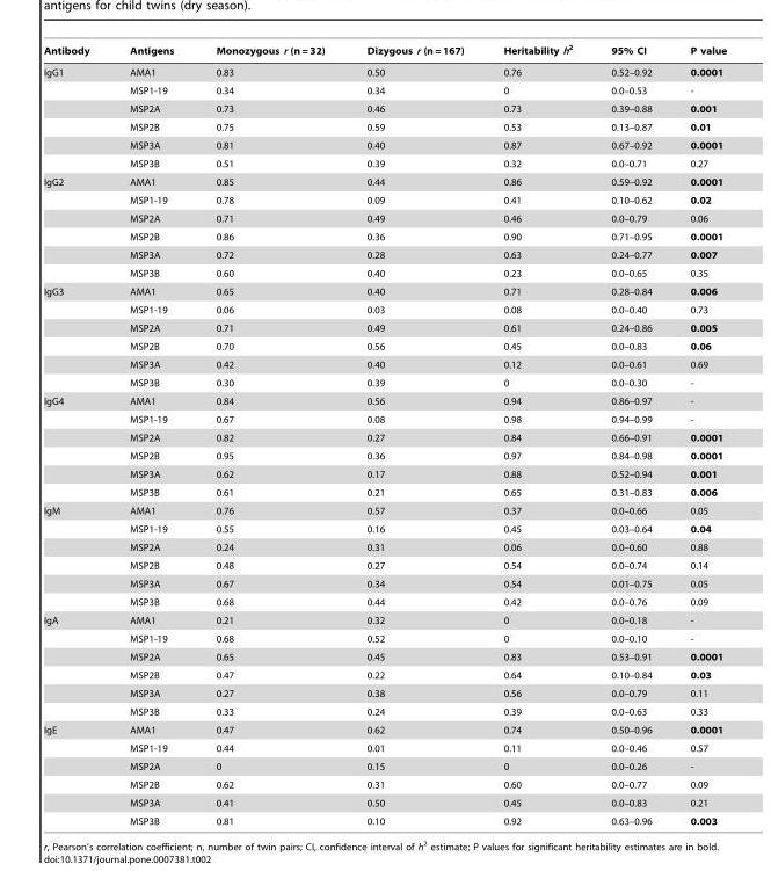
<table><thead><tr><td>Antibody</td><td>Antigens</td><td>Monozygous r (n = 32)</td><td>Dizygous r (n = 167)</td><td>Heritability h<sup>2</sup></td><td>95% CI</td><td>P value</td></tr></thead><tbody><tr><td rowspan="6">IgG1</td><td>AMA1</td><td>0.83</td><td>0.50</td><td>0.76</td><td>0.52–0.92</td><td>0.0001</td></tr><tr><td>MSP1-19</td><td>0.34</td><td>0.34</td><td>0</td><td>0.0–0.53</td><td>-</td></tr><tr><td>MSP2A</td><td>0.73</td><td>0.46</td><td>0.73</td><td>0.39–0.88</td><td>0.001</td></tr><tr><td>MSP2B</td><td>0.75</td><td>0.59</td><td>0.53</td><td>0.13–0.87</td><td>0.01</td></tr><tr><td>MSP3A</td><td>0.81</td><td>0.40</td><td>0.87</td><td>0.67–0.92</td><td>0.0001</td></tr><tr><td>MSP3B</td><td>0.51</td><td>0.39</td><td>0.32</td><td>0.0–0.71</td><td>0.27</td></tr><tr><td rowspan="6">IgG2</td><td>AMA1</td><td>0.85</td><td>0.44</td><td>0.86</td><td>0.59–0.92</td><td>0.0001</td></tr><tr><td>MSP1-19</td><td>0.78</td><td>0.09</td><td>0.41</td><td>0.10–0.62</td><td>0.02</td></tr><tr><td>MSP2A</td><td>0.71</td><td>0.49</td><td>0.46</td><td>0.0–0.79</td><td>0.06</td></tr><tr><td>MSP2B</td><td>0.86</td><td>0.36</td><td>0.90</td><td>0.71–0.95</td><td>0.0001</td></tr><tr><td>MSP3A</td><td>0.72</td><td>0.28</td><td>0.63</td><td>0.24–0.77</td><td>0.007</td></tr><tr><td>MSP3B</td><td>0.60</td><td>0.40</td><td>0.23</td><td>0.0–0.65</td><td>0.35</td></tr><tr><td rowspan="6">IgG3</td><td>AMA1</td><td>0.65</td><td>0.40</td><td>0.71</td><td>0.28–0.84</td><td>0.006</td></tr><tr><td>MSP1-19</td><td>0.06</td><td>0.03</td><td>0.08</td><td>0.0–0.40</td><td>0.73</td></tr><tr><td>MSP2A</td><td>0.71</td><td>0.49</td><td>0.61</td><td>0.24–0.86</td><td>0.005</td></tr><tr><td>MSP2B</td><td>0.70</td><td>0.56</td><td>0.45</td><td>0.0–0.83</td><td>0.06</td></tr><tr><td>MSP3A</td><td>0.42</td><td>0.40</td><td>0.12</td><td>0.0–0.61</td><td>0.69</td></tr><tr><td>MSP3B</td><td>0.30</td><td>0.39</td><td>0</td><td>0.0–0.30</td><td>-</td></tr><tr><td rowspan="6">IgG4</td><td>AMA1</td><td>0.84</td><td>0.56</td><td>0.94</td><td>0.86–0.97</td><td>-</td></tr><tr><td>MSP1-19</td><td>0.67</td><td>0.08</td><td>0.98</td><td>0.94–0.99</td><td>-</td></tr><tr><td>MSP2A</td><td>0.82</td><td>0.27</td><td>0.84</td><td>0.66–0.91</td><td>0.0001</td></tr><tr><td>MSP2B</td><td>0.95</td><td>0.36</td><td>0.97</td><td>0.84–0.98</td><td>0.0001</td></tr><tr><td>MSP3A</td><td>0.62</td><td>0.17</td><td>0.88</td><td>0.52–0.94</td><td>0.001</td></tr><tr><td>MSP3B</td><td>0.61</td><td>0.21</td><td>0.65</td><td>0.31–0.83</td><td>0.006</td></tr><tr><td rowspan="6">IgM</td><td>AMA1</td><td>0.76</td><td>0.57</td><td>0.37</td><td>0.0–0.66</td><td>0.05</td></tr><tr><td>MSP1-19</td><td>0.55</td><td>0.16</td><td>0.45</td><td>0.03–0.64</td><td>0.04</td></tr><tr><td>MSP2A</td><td>0.24</td><td>0.31</td><td>0.06</td><td>0.0–0.60</td><td>0.88</td></tr><tr><td>MSP2B</td><td>0.48</td><td>0.27</td><td>0.54</td><td>0.0–0.74</td><td>0.14</td></tr><tr><td>MSP3A</td><td>0.67</td><td>0.34</td><td>0.54</td><td>0.01–0.75</td><td>0.05</td></tr><tr><td>MSP3B</td><td>0.68</td><td>0.44</td><td>0.42</td><td>0.0–0.76</td><td>0.09</td></tr><tr><td rowspan="6">IgA</td><td>AMA1</td><td>0.21</td><td>0.32</td><td>0</td><td>0.0–0.18</td><td>-</td></tr><tr><td>MSP1-19</td><td>0.68</td><td>0.52</td><td>0</td><td>0.0–0.10</td><td>-</td></tr><tr><td>MSP2A</td><td>0.65</td><td>0.45</td><td>0.83</td><td>0.53–0.91</td><td>0.0001</td></tr><tr><td>MSP2B</td><td>0.47</td><td>0.22</td><td>0.64</td><td>0.10–0.84</td><td>0.03</td></tr><tr><td>MSP3A</td><td>0.27</td><td>0.38</td><td>0.56</td><td>0.0–0.79</td><td>0.11</td></tr><tr><td>MSP3B</td><td>0.33</td><td>0.24</td><td>0.39</td><td>0.0–0.63</td><td>0.33</td></tr><tr><td rowspan="6">IgE</td><td>AMA1</td><td>0.47</td><td>0.62</td><td>0.74</td><td>0.50–0.96</td><td>0.0001</td></tr><tr><td>MSP1-19</td><td>0.44</td><td>0.01</td><td>0.11</td><td>0.0–0.46</td><td>0.57</td></tr><tr><td>MSP2A</td><td>0</td><td>0.15</td><td>0</td><td>0.0–0.26</td><td>-</td></tr><tr><td>MSP2B</td><td>0.62</td><td>0.31</td><td>0.60</td><td>0.0–0.77</td><td>0.09</td></tr><tr><td>MSP3A</td><td>0.41</td><td>0.50</td><td>0.45</td><td>0.0–0.83</td><td>0.21</td></tr><tr><td>MSP3B</td><td>0.81</td><td>0.10</td><td>0.92</td><td>0.63–0.96</td><td>0.003</td></tr></tbody></table>